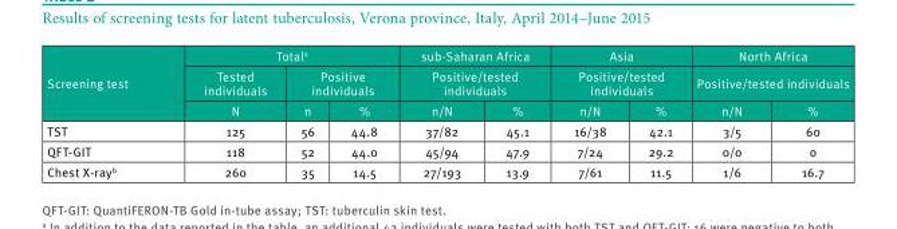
<table><thead><tr><td rowspan="3">Screening test</td><td colspan="3">Total<sup>a</sup></td><td rowspan="2" colspan="2">sub-Saharan Africa Positive/tested individuals</td><td rowspan="2" colspan="2">Asia Positive/tested individuals</td><td rowspan="2" colspan="2">North Africa Positive/tested individuals</td></tr><tr><td rowspan="2">Tested individuals N</td><td colspan="2">Positive individuals</td></tr><tr><td>n</td><td>%</td><td>n/N</td><td>%</td><td>n/N</td><td>%</td><td>n/N</td><td>%</td></tr></thead><tbody><tr><td>TST</td><td>125</td><td>56</td><td>44.8</td><td>37/82</td><td>45.1</td><td>16/38</td><td>42.1</td><td>3/5</td><td>60</td></tr><tr><td>QFT-GIT</td><td>118</td><td>52</td><td>44.0</td><td>45/94</td><td>47.9</td><td>7/24</td><td>29.2</td><td>0/0</td><td>0</td></tr><tr><td>Chest X-ray<sup>b</sup></td><td>260</td><td>35</td><td>14.5</td><td>27/193</td><td>13.9</td><td>7/61</td><td>11.5</td><td>1/6</td><td>16.7</td></tr></tbody></table>